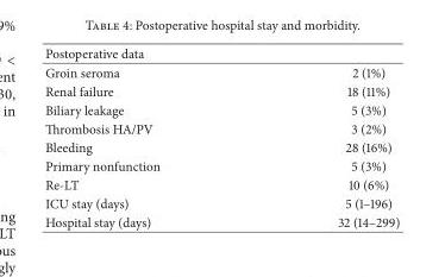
<table><thead><tr><td>Postoperative data</td><td></td></tr></thead><tbody><tr><td>Groin seroma</td><td>2 (1%)</td></tr><tr><td>Renal failure</td><td>18 (11%)</td></tr><tr><td>Biliary leakage</td><td>5 (3%)</td></tr><tr><td>Thrombosis HA/PV</td><td>3 (2%)</td></tr><tr><td>Bleeding</td><td>28 (16%)</td></tr><tr><td>Primary nonfunction</td><td>5 (3%)</td></tr><tr><td>Re-LT</td><td>10 (6%)</td></tr><tr><td>ICU stay (days)</td><td>5 (1–196)</td></tr><tr><td>Hospital stay (days)</td><td>32 (14–299)</td></tr></tbody></table>